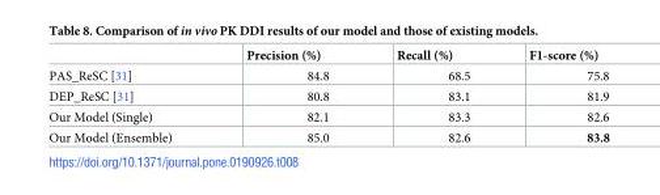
<table><thead><tr><td></td><td>Precision (%)</td><td>Recall (%)</td><td>F1-score (%)</td></tr></thead><tbody><tr><td>PAS_ReSC [31]</td><td>84.8</td><td>68.5</td><td>75.8</td></tr><tr><td>DEP_ReSC [31]</td><td>80.8</td><td>83.1</td><td>81.9</td></tr><tr><td>Our Model (Single)</td><td>82.1</td><td>83.3</td><td>82.6</td></tr><tr><td>Our Model (Ensemble)</td><td>85.0</td><td>82.6</td><td>83.8</td></tr></tbody></table>